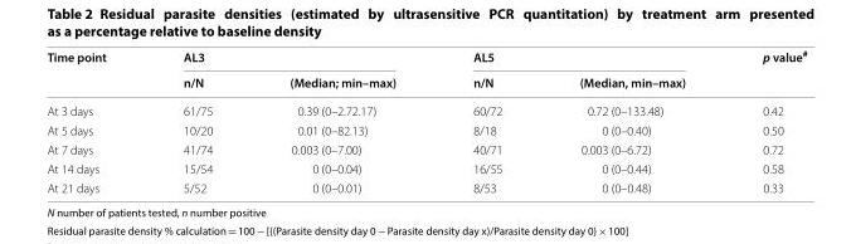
<table><thead><tr><td rowspan="2">Time point</td><td colspan="2">AL3</td><td colspan="2">AL5</td><td rowspan="2">p value<sup>#</sup></td></tr><tr><td>n/N</td><td>(Median; min–max)</td><td>n/N</td><td>(Median, min–max)</td></tr></thead><tbody><tr><td>At 3 days</td><td>61/75</td><td>0.39 (0–2.72.17)</td><td>60/72</td><td>0.72 (0–133.48)</td><td>0.42</td></tr><tr><td>At 5 days</td><td>10/20</td><td>0.01 (0–82.13)</td><td>8/18</td><td>0 (0–0.40)</td><td>0.50</td></tr><tr><td>At 7 days</td><td>41/74</td><td>0.003 (0–7.00)</td><td>40/71</td><td>0.003 (0–6.72)</td><td>0.72</td></tr><tr><td>At 14 days</td><td>15/54</td><td>0 (0–0.04)</td><td>16/55</td><td>0 (0–0.44)</td><td>0.58</td></tr><tr><td>At 21 days</td><td>5/52</td><td>0 (0–0.01)</td><td>8/53</td><td>0 (0–0.48)</td><td>0.33</td></tr></tbody></table>